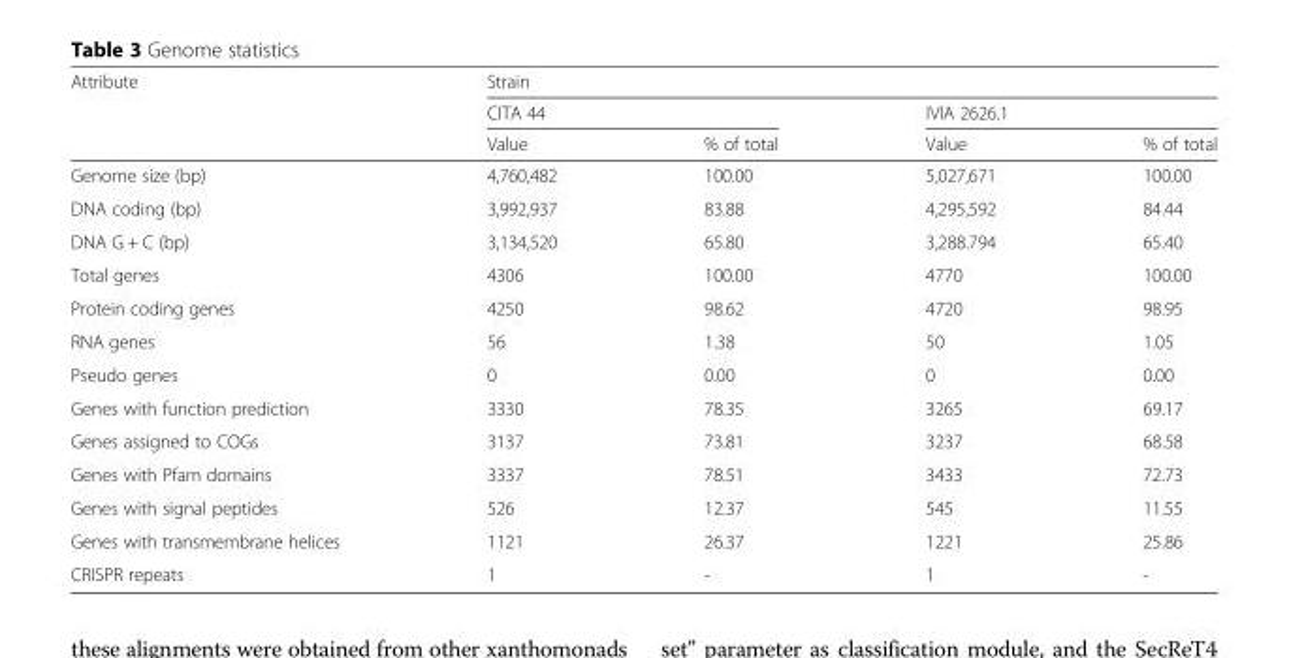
<table><thead><tr><td rowspan="3">Attribute</td><td colspan="4">Strain</td></tr><tr><td colspan="2">CITA 44</td><td colspan="2">IVIA 2626.1</td></tr><tr><td>Value</td><td>% of total</td><td>Value</td><td>% of total</td></tr></thead><tbody><tr><td>Genome size (bp)</td><td>4,760,482</td><td>100.00</td><td>5,027,671</td><td>100.00</td></tr><tr><td>DNA coding (bp)</td><td>3,992,937</td><td>83.88</td><td>4,295,592</td><td>84.44</td></tr><tr><td>DNA G + C (bp)</td><td>3,134,520</td><td>65.80</td><td>3,288.794</td><td>65.40</td></tr><tr><td>Total genes</td><td>4306</td><td>100.00</td><td>4770</td><td>100.00</td></tr><tr><td>Protein coding genes</td><td>4250</td><td>98.62</td><td>4720</td><td>98.95</td></tr><tr><td>RNA genes</td><td>56</td><td>1.38</td><td>50</td><td>1.05</td></tr><tr><td>Pseudo genes</td><td>0</td><td>0.00</td><td>0</td><td>0.00</td></tr><tr><td>Genes with function prediction</td><td>3330</td><td>78.35</td><td>3265</td><td>69.17</td></tr><tr><td>Genes assigned to COGs</td><td>3137</td><td>73.81</td><td>3237</td><td>68.58</td></tr><tr><td>Genes with Pfam domains</td><td>3337</td><td>78.51</td><td>3433</td><td>72.73</td></tr><tr><td>Genes with signal peptides</td><td>526</td><td>12.37</td><td>545</td><td>11.55</td></tr><tr><td>Genes with transmembrane helices</td><td>1121</td><td>26.37</td><td>1221</td><td>25.86</td></tr><tr><td>CRISPR repeats</td><td>1</td><td>-</td><td>1</td><td>-</td></tr></tbody></table>